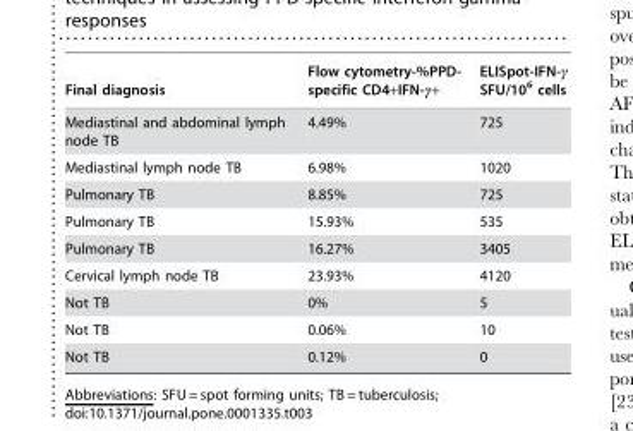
<table><thead><tr><td>Final diagnosis</td><td>Flow cytometry-%PPD- specific CD4+IFN-γ+</td><td>ELISpot-IFN-γ SFU/10<sup>6</sup> cells</td></tr></thead><tbody><tr><td>Mediastinal and abdominal lymph node TB</td><td>4.49%</td><td>725</td></tr><tr><td>Mediastinal lymph node TB</td><td>6.98%</td><td>1020</td></tr><tr><td>Pulmonary TB</td><td>8.85%</td><td>725</td></tr><tr><td>Pulmonary TB</td><td>15.93%</td><td>535</td></tr><tr><td>Pulmonary TB</td><td>16.27%</td><td>3405</td></tr><tr><td>Cervical lymph node TB</td><td>23.93%</td><td>4120</td></tr><tr><td>Not TB</td><td>0%</td><td>5</td></tr><tr><td>Not TB</td><td>0.06%</td><td>10</td></tr><tr><td>Not TB</td><td>0.12%</td><td>0</td></tr></tbody></table>